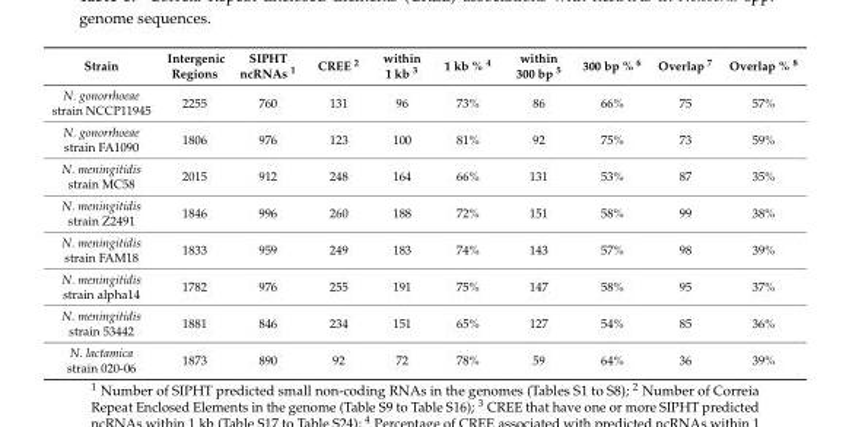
<table><thead><tr><td>Strain</td><td>Intergenic Regions</td><td>SIPHT ncRNAs <sup>1</sup></td><td>CREE <sup>2</sup></td><td>within 1 kb <sup>3</sup></td><td>1 kb % <sup>4</sup></td><td>within 300 bp <sup>5</sup></td><td>300 bp % <sup>6</sup></td><td>Overlap <sup>7</sup></td><td>Overlap % <sup>8</sup></td></tr></thead><tbody><tr><td>N. gonorrhoeae strain NCCP11945</td><td>2255</td><td>760</td><td>131</td><td>96</td><td>73%</td><td>86</td><td>66%</td><td>75</td><td>57%</td></tr><tr><td>N. gonorrhoeae strain FA1090</td><td>1806</td><td>976</td><td>123</td><td>100</td><td>81%</td><td>92</td><td>75%</td><td>73</td><td>59%</td></tr><tr><td>N. meningitidis strain MC58</td><td>2015</td><td>912</td><td>248</td><td>164</td><td>66%</td><td>131</td><td>53%</td><td>87</td><td>35%</td></tr><tr><td>N. meningitidis strain Z2491</td><td>1846</td><td>996</td><td>260</td><td>188</td><td>72%</td><td>151</td><td>58%</td><td>99</td><td>38%</td></tr><tr><td>N. meningitidis strain FAM18</td><td>1833</td><td>959</td><td>249</td><td>183</td><td>74%</td><td>143</td><td>57%</td><td>98</td><td>39%</td></tr><tr><td>N. meningitidis strain alpha14</td><td>1782</td><td>976</td><td>255</td><td>191</td><td>75%</td><td>147</td><td>58%</td><td>95</td><td>37%</td></tr><tr><td>N. meningitidis strain 53442</td><td>1881</td><td>846</td><td>234</td><td>151</td><td>65%</td><td>127</td><td>54%</td><td>85</td><td>36%</td></tr><tr><td>N. lactamica strain 020-06</td><td>1873</td><td>890</td><td>92</td><td>72</td><td>78%</td><td>59</td><td>64%</td><td>36</td><td>39%</td></tr></tbody></table>